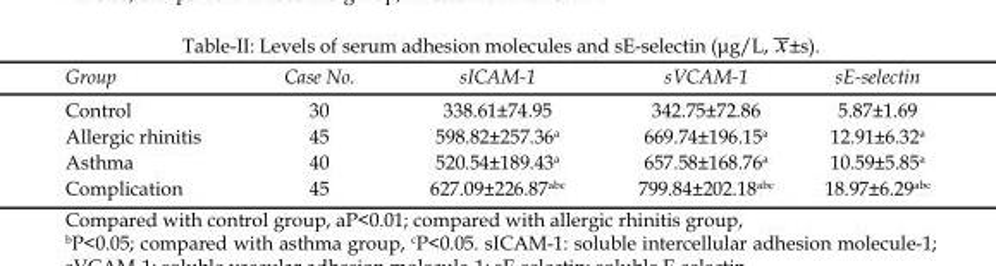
<table><thead><tr><td>Group</td><td>Case No.</td><td>sICAM-1</td><td>sVCAM-1</td><td>sE-selectin</td></tr></thead><tbody><tr><td>Control</td><td>30</td><td>338.61±74.95</td><td>342.75±72.86</td><td>5.87±1.69</td></tr><tr><td>Allergic rhinitis</td><td>45</td><td>598.82±257.36<sup>a</sup></td><td>669.74±196.15<sup>a</sup></td><td>12.91±6.32<sup>a</sup></td></tr><tr><td>Asthma</td><td>40</td><td>520.54±189.43<sup>a</sup></td><td>657.58±168.76<sup>a</sup></td><td>10.59±5.85<sup>a</sup></td></tr><tr><td>Complication</td><td>45</td><td>627.09±226.87<sup>abc</sup></td><td>799.84±202.18<sup>abc</sup></td><td>18.97±6.29<sup>abc</sup></td></tr></tbody></table>